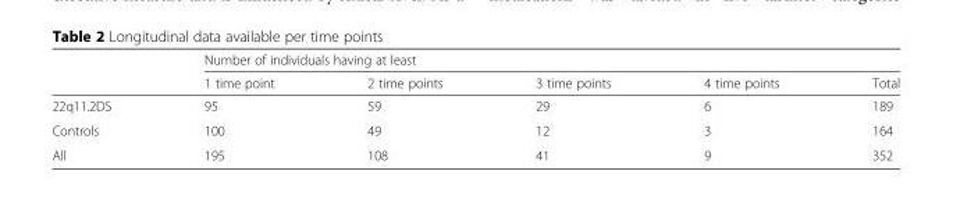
<table><thead><tr><td rowspan="2"></td><td colspan="5">Number of individuals having at least</td></tr><tr><td>1 time point</td><td>2 time points</td><td>3 time points</td><td>4 time points</td><td>Total</td></tr></thead><tbody><tr><td>22q11.2DS</td><td>95</td><td>59</td><td>29</td><td>6</td><td>189</td></tr><tr><td>Controls</td><td>100</td><td>49</td><td>12</td><td>3</td><td>164</td></tr><tr><td>All</td><td>195</td><td>108</td><td>41</td><td>9</td><td>352</td></tr></tbody></table>